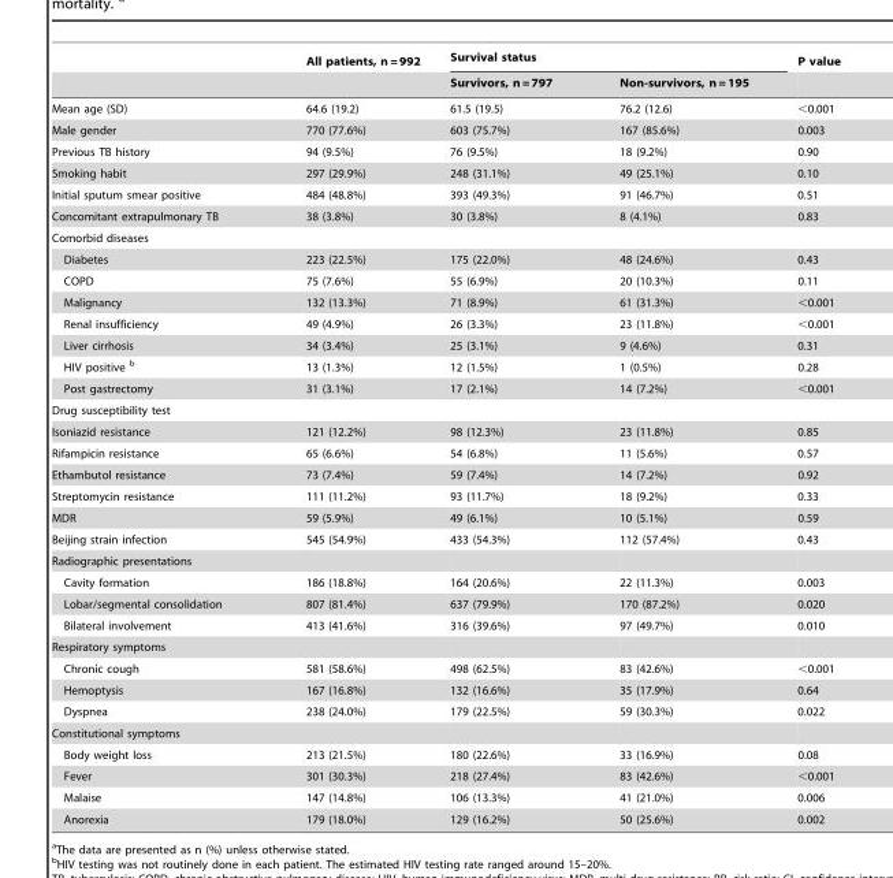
<table><thead><tr><td rowspan="2"></td><td rowspan="2">All patients, n = 992</td><td colspan="2">Survival status</td><td rowspan="2">P value</td></tr><tr><td>Survivors, n = 797</td><td>Non-survivors, n = 195</td></tr></thead><tbody><tr><td>Mean age (SD)</td><td>64.6 (19.2)</td><td>61.5 (19.5)</td><td>76.2 (12.6)</td><td>&lt;0.001</td></tr><tr><td>Male gender</td><td>770 (77.6%)</td><td>603 (75.7%)</td><td>167 (85.6%)</td><td>0.003</td></tr><tr><td>Previous TB history</td><td>94 (9.5%)</td><td>76 (9.5%)</td><td>18 (9.2%)</td><td>0.90</td></tr><tr><td>Smoking habit</td><td>297 (29.9%)</td><td>248 (31.1%)</td><td>49 (25.1%)</td><td>0.10</td></tr><tr><td>Initial sputum smear positive</td><td>484 (48.8%)</td><td>393 (49.3%)</td><td>91 (46.7%)</td><td>0.51</td></tr><tr><td>Concomitant extrapulmonary TB</td><td>38 (3.8%)</td><td>30 (3.8%)</td><td>8 (4.1%)</td><td>0.83</td></tr><tr><td colspan="5">Comorbid diseases</td></tr><tr><td>Diabetes</td><td>223 (22.5%)</td><td>175 (22.0%)</td><td>48 (24.6%)</td><td>0.43</td></tr><tr><td>COPD</td><td>75 (7.6%)</td><td>55 (6.9%)</td><td>20 (10.3%)</td><td>0.11</td></tr><tr><td>Malignancy</td><td>132 (13.3%)</td><td>71 (8.9%)</td><td>61 (31.3%)</td><td>&lt;0.001</td></tr><tr><td>Renal insufficiency</td><td>49 (4.9%)</td><td>26 (3.3%)</td><td>23 (11.8%)</td><td>&lt;0.001</td></tr><tr><td>Liver cirrhosis</td><td>34 (3.4%)</td><td>25 (3.1%)</td><td>9 (4.6%)</td><td>0.31</td></tr><tr><td>HIV positive b</td><td>13 (1.3%)</td><td>12 (1.5%)</td><td>1 (0.5%)</td><td>0.28</td></tr><tr><td>Post gastrectomy</td><td>31 (3.1%)</td><td>17 (2.1%)</td><td>14 (7.2%)</td><td>&lt;0.001</td></tr><tr><td colspan="5">Drug susceptibility test</td></tr><tr><td>Isoniazid resistance</td><td>121 (12.2%)</td><td>98 (12.3%)</td><td>23 (11.8%)</td><td>0.85</td></tr><tr><td>Rifampicin resistance</td><td>65 (6.6%)</td><td>54 (6.8%)</td><td>11 (5.6%)</td><td>0.57</td></tr><tr><td>Ethambutol resistance</td><td>73 (7.4%)</td><td>59 (7.4%)</td><td>14 (7.2%)</td><td>0.92</td></tr><tr><td>Streptomycin resistance</td><td>111 (11.2%)</td><td>93 (11.7%)</td><td>18 (9.2%)</td><td>0.33</td></tr><tr><td>MDR</td><td>59 (5.9%)</td><td>49 (6.1%)</td><td>10 (5.1%)</td><td>0.59</td></tr><tr><td>Beijing strain infection</td><td>545 (54.9%)</td><td>433 (54.3%)</td><td>112 (57.4%)</td><td>0.43</td></tr><tr><td colspan="5">Radiographic presentations</td></tr><tr><td>Cavity formation</td><td>186 (18.8%)</td><td>164 (20.6%)</td><td>22 (11.3%)</td><td>0.003</td></tr><tr><td>Lobar/segmental consolidation</td><td>807 (81.4%)</td><td>637 (79.9%)</td><td>170 (87.2%)</td><td>0.020</td></tr><tr><td>Bilateral involvement</td><td>413 (41.6%)</td><td>316 (39.6%)</td><td>97 (49.7%)</td><td>0.010</td></tr><tr><td colspan="5">Respiratory symptoms</td></tr><tr><td>Chronic cough</td><td>581 (58.6%)</td><td>498 (62.5%)</td><td>83 (42.6%)</td><td>&lt;0.001</td></tr><tr><td>Hemoptysis</td><td>167 (16.8%)</td><td>132 (16.6%)</td><td>35 (17.9%)</td><td>0.64</td></tr><tr><td>Dyspnea</td><td>238 (24.0%)</td><td>179 (22.5%)</td><td>59 (30.3%)</td><td>0.022</td></tr><tr><td colspan="5">Constitutional symptoms</td></tr><tr><td>Body weight loss</td><td>213 (21.5%)</td><td>180 (22.6%)</td><td>33 (16.9%)</td><td>0.08</td></tr><tr><td>Fever</td><td>301 (30.3%)</td><td>218 (27.4%)</td><td>83 (42.6%)</td><td>&lt;0.001</td></tr><tr><td>Malaise</td><td>147 (14.8%)</td><td>106 (13.3%)</td><td>41 (21.0%)</td><td>0.006</td></tr><tr><td>Anorexia</td><td>179 (18.0%)</td><td>129 (16.2%)</td><td>50 (25.6%)</td><td>0.002</td></tr></tbody></table>